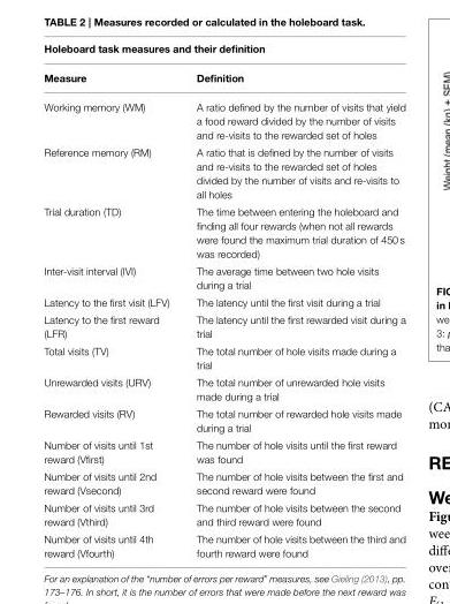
<table><thead><tr><td colspan="2">Holeboard task measures and their definition</td></tr><tr><td>Measure</td><td>Definition</td></tr></thead><tbody><tr><td>Working memory (WM)</td><td>A ratio defined by the number of visits that yield a food reward divided by the number of visits and re-visits to the rewarded set of holes</td></tr><tr><td>Reference memory (RM)</td><td>A ratio that is defined by the number of visits and re-visits to the rewarded set of holes divided by the number of visits and re-visits to all holes</td></tr><tr><td>Trial duration (TD)</td><td>The time between entering the holeboard and finding all four rewards (when not all rewards were found the maximum trial duration of 450 s was recorded)</td></tr><tr><td>Inter-visit interval (IVI)</td><td>The average time between two hole visits during a trial</td></tr><tr><td>Latency to the first visit (LFV)</td><td>The latency until the first visit during a trial</td></tr><tr><td>Latency to the first reward (LFR)</td><td>The latency until the first rewarded visit during a trial</td></tr><tr><td>Total visits (TV)</td><td>The total number of hole visits made during a trial</td></tr><tr><td>Unrewarded visits (URV)</td><td>The total number of unrewarded hole visits made during a trial</td></tr><tr><td>Rewarded visits (RV)</td><td>The total number of rewarded hole visits made during a trial</td></tr><tr><td>Number of visits until 1st reward (Vfirst)</td><td>The number of hole visits until the first reward was found</td></tr><tr><td>Number of visits until 2nd reward (Vsecond)</td><td>The number of hole visits between the first and second reward were found</td></tr><tr><td>Number of visits until 3rd reward (Vthird)</td><td>The number of hole visits between the second and third reward were found</td></tr><tr><td>Number of visits until 4th reward (Vfourth)</td><td>The number of hole visits between the third and fourth reward were found</td></tr></tbody></table>